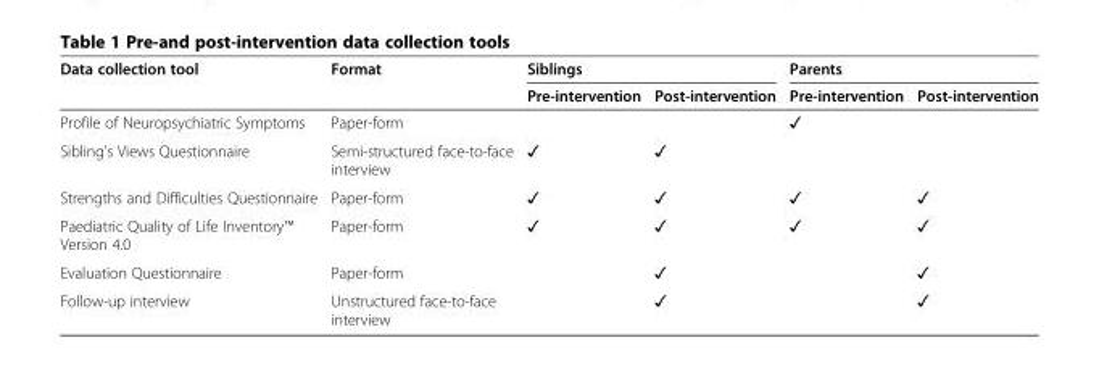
<table><thead><tr><td rowspan="2">Data collection tool</td><td rowspan="2">Format</td><td colspan="2">Siblings</td><td colspan="2">Parents</td></tr><tr><td>Pre-intervention</td><td>Post-intervention</td><td>Pre-intervention</td><td>Post-intervention</td></tr></thead><tbody><tr><td>Profile of Neuropsychiatric Symptoms</td><td>Paper-form</td><td></td><td></td><td>✓</td><td></td></tr><tr><td>Sibling&#x27;s Views Questionnaire</td><td>Semi-structured face-to-face interview</td><td>✓</td><td>✓</td><td></td><td></td></tr><tr><td>Strengths and Difficulties Questionnaire</td><td>Paper-form</td><td>✓</td><td>✓</td><td>✓</td><td>✓</td></tr><tr><td>Paediatric Quality of Life Inventory™ Version 4.0</td><td>Paper-form</td><td>✓</td><td>✓</td><td>✓</td><td>✓</td></tr><tr><td>Evaluation Questionnaire</td><td>Paper-form</td><td></td><td>✓</td><td></td><td>✓</td></tr><tr><td>Follow-up interview</td><td>Unstructured face-to-face interview</td><td></td><td>✓</td><td></td><td>✓</td></tr></tbody></table>